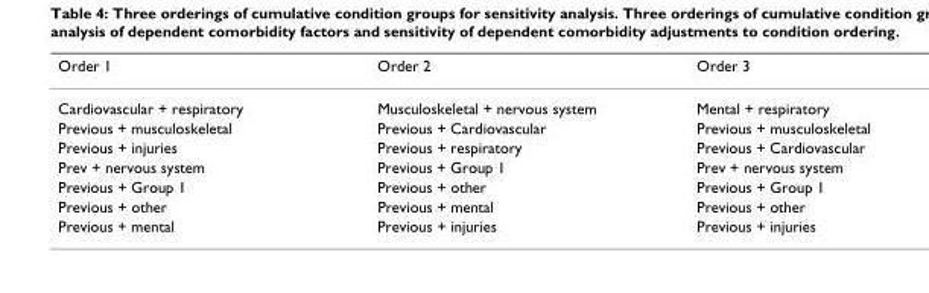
<table><thead><tr><td>Order 1</td><td>Order 2</td><td>Order 3</td></tr></thead><tbody><tr><td>Cardiovascular + respiratory</td><td>Musculoskeletal + nervous system</td><td>Mental + respiratory</td></tr><tr><td>Previous + musculoskeletal</td><td>Previous + Cardiovascular</td><td>Previous + musculoskeletal</td></tr><tr><td>Previous + injuries</td><td>Previous + respiratory</td><td>Previous + Cardiovascular</td></tr><tr><td>Prev + nervous system</td><td>Previous + Group 1</td><td>Prev + nervous system</td></tr><tr><td>Previous + Group 1</td><td>Previous + other</td><td>Previous + Group 1</td></tr><tr><td>Previous + other</td><td>Previous + mental</td><td>Previous + other</td></tr><tr><td>Previous + mental</td><td>Previous + injuries</td><td>Previous + injuries</td></tr></tbody></table>